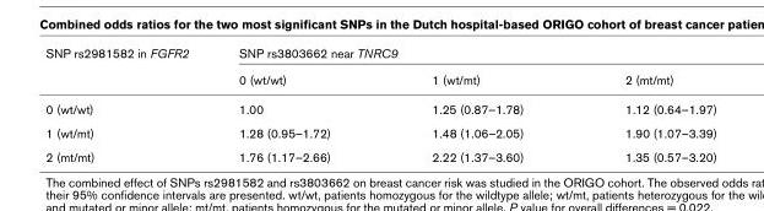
<table><thead><tr><td rowspan="2">SNP rs2981582 in FGFR2</td><td colspan="3">SNP rs3803662 near TNRC9</td></tr><tr><td>0 (wt/wt)</td><td>1 (wt/mt)</td><td>2 (mt/mt)</td></tr></thead><tbody><tr><td>0 (wt/wt)</td><td>1.00</td><td>1.25 (0.87–1.78)</td><td>1.12 (0.64–1.97)</td></tr><tr><td>1 (wt/mt)</td><td>1.28 (0.95–1.72)</td><td>1.48 (1.06–2.05)</td><td>1.90 (1.07–3.39)</td></tr><tr><td>2 (mt/mt)</td><td>1.76 (1.17–2.66)</td><td>2.22 (1.37–3.60)</td><td>1.35 (0.57–3.20)</td></tr></tbody></table>